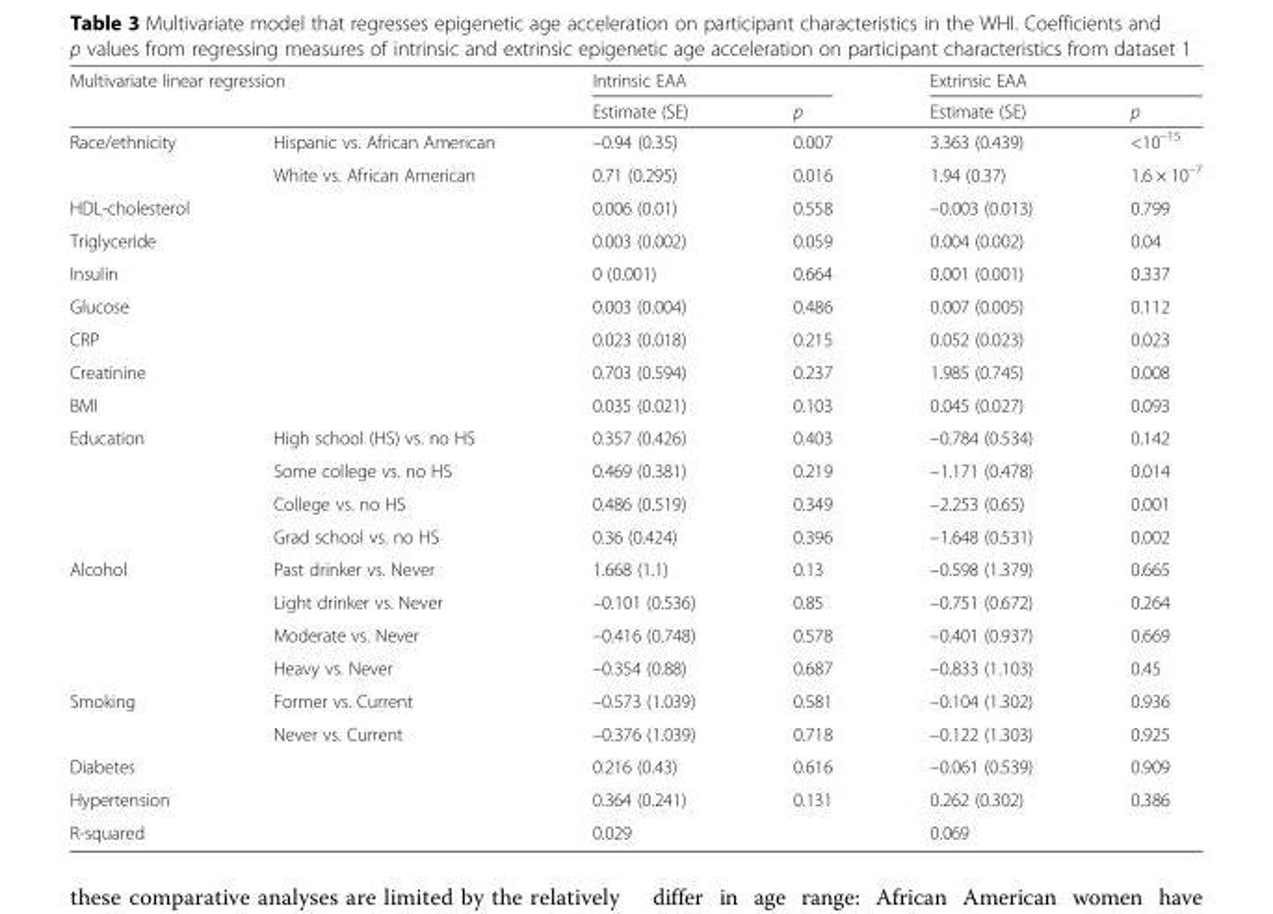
<table><thead><tr><td colspan="2">Multivariate linear regression</td><td colspan="2">Intrinsic EAA</td><td colspan="2">Extrinsic EAA</td></tr><tr><td></td><td></td><td>Estimate (SE)</td><td>p</td><td>Estimate (SE)</td><td>p</td></tr></thead><tbody><tr><td rowspan="2">Race/ethnicity</td><td>Hispanic vs. African American</td><td>–0.94 (0.35)</td><td>0.007</td><td>3.363 (0.439)</td><td>&lt;10<sup>–15</sup></td></tr><tr><td>White vs. African American</td><td>0.71 (0.295)</td><td>0.016</td><td>1.94 (0.37)</td><td>1.6 × 10<sup>–7</sup></td></tr><tr><td colspan="2">HDL-cholesterol</td><td>0.006 (0.01)</td><td>0.558</td><td>–0.003 (0.013)</td><td>0.799</td></tr><tr><td>Triglyceride</td><td></td><td>0.003 (0.002)</td><td>0.059</td><td>0.004 (0.002)</td><td>0.04</td></tr><tr><td>Insulin</td><td></td><td>0 (0.001)</td><td>0.664</td><td>0.001 (0.001)</td><td>0.337</td></tr><tr><td>Glucose</td><td></td><td>0.003 (0.004)</td><td>0.486</td><td>0.007 (0.005)</td><td>0.112</td></tr><tr><td>CRP</td><td></td><td>0.023 (0.018)</td><td>0.215</td><td>0.052 (0.023)</td><td>0.023</td></tr><tr><td>Creatinine</td><td></td><td>0.703 (0.594)</td><td>0.237</td><td>1.985 (0.745)</td><td>0.008</td></tr><tr><td>BMI</td><td></td><td>0.035 (0.021)</td><td>0.103</td><td>0.045 (0.027)</td><td>0.093</td></tr><tr><td rowspan="4">Education</td><td>High school (HS) vs. no HS</td><td>0.357 (0.426)</td><td>0.403</td><td>–0.784 (0.534)</td><td>0.142</td></tr><tr><td>Some college vs. no HS</td><td>0.469 (0.381)</td><td>0.219</td><td>–1.171 (0.478)</td><td>0.014</td></tr><tr><td>College vs. no HS</td><td>0.486 (0.519)</td><td>0.349</td><td>–2.253 (0.65)</td><td>0.001</td></tr><tr><td>Grad school vs. no HS</td><td>0.36 (0.424)</td><td>0.396</td><td>–1.648 (0.531)</td><td>0.002</td></tr><tr><td rowspan="4">Alcohol</td><td>Past drinker vs. Never</td><td>1.668 (1.1)</td><td>0.13</td><td>–0.598 (1.379)</td><td>0.665</td></tr><tr><td>Light drinker vs. Never</td><td>–0.101 (0.536)</td><td>0.85</td><td>–0.751 (0.672)</td><td>0.264</td></tr><tr><td>Moderate vs. Never</td><td>–0.416 (0.748)</td><td>0.578</td><td>–0.401 (0.937)</td><td>0.669</td></tr><tr><td>Heavy vs. Never</td><td>–0.354 (0.88)</td><td>0.687</td><td>–0.833 (1.103)</td><td>0.45</td></tr><tr><td rowspan="2">Smoking</td><td>Former vs. Current</td><td>–0.573 (1.039)</td><td>0.581</td><td>–0.104 (1.302)</td><td>0.936</td></tr><tr><td>Never vs. Current</td><td>–0.376 (1.039)</td><td>0.718</td><td>–0.122 (1.303)</td><td>0.925</td></tr><tr><td>Diabetes</td><td></td><td>0.216 (0.43)</td><td>0.616</td><td>–0.061 (0.539)</td><td>0.909</td></tr><tr><td>Hypertension</td><td></td><td>0.364 (0.241)</td><td>0.131</td><td>0.262 (0.302)</td><td>0.386</td></tr><tr><td>R-squared</td><td></td><td>0.029</td><td></td><td>0.069</td><td></td></tr></tbody></table>